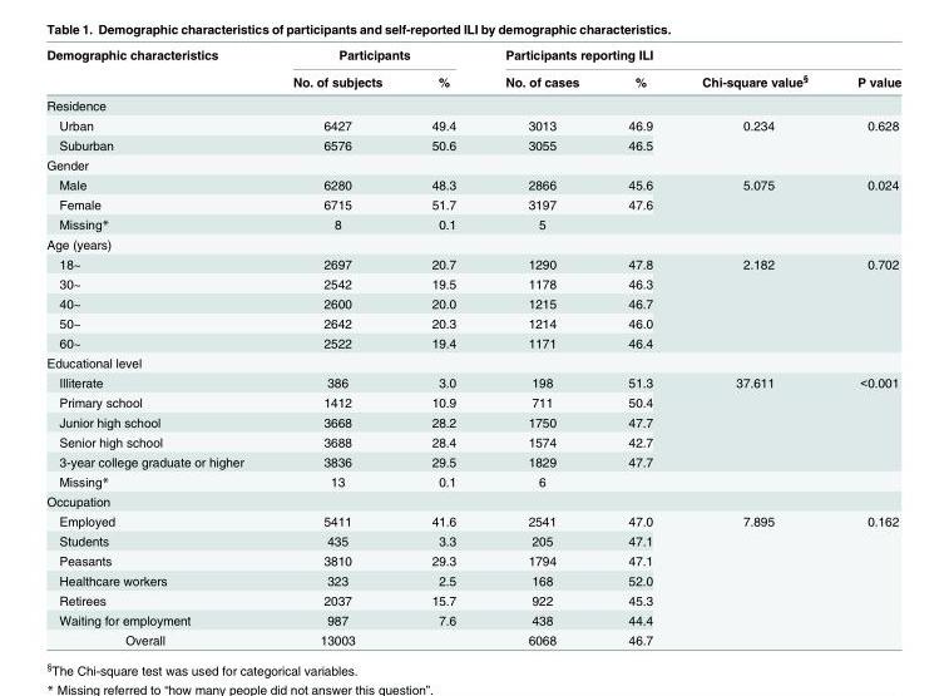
<table><thead><tr><td rowspan="2">Demographic characteristics</td><td colspan="2">Participants</td><td colspan="4">Participants reporting ILI</td></tr><tr><td>No. of subjects</td><td>%</td><td>No. of cases</td><td>%</td><td>Chi-square value<sup>§</sup></td><td>P value</td></tr></thead><tbody><tr><td colspan="7">Residence</td></tr><tr><td>Urban</td><td>6427</td><td>49.4</td><td>3013</td><td>46.9</td><td rowspan="2">0.234</td><td rowspan="2">0.628</td></tr><tr><td>Suburban</td><td>6576</td><td>50.6</td><td>3055</td><td>46.5</td></tr><tr><td colspan="7">Gender</td></tr><tr><td>Male</td><td>6280</td><td>48.3</td><td>2866</td><td>45.6</td><td rowspan="2">5.075</td><td rowspan="2">0.024</td></tr><tr><td>Female</td><td>6715</td><td>51.7</td><td>3197</td><td>47.6</td></tr><tr><td>Missing*</td><td>8</td><td>0.1</td><td>5</td><td></td><td></td><td></td></tr><tr><td colspan="7">Age (years)</td></tr><tr><td>18~</td><td>2697</td><td>20.7</td><td>1290</td><td>47.8</td><td rowspan="5">2.182</td><td rowspan="5">0.702</td></tr><tr><td>30~</td><td>2542</td><td>19.5</td><td>1178</td><td>46.3</td></tr><tr><td>40~</td><td>2600</td><td>20.0</td><td>1215</td><td>46.7</td></tr><tr><td>50~</td><td>2642</td><td>20.3</td><td>1214</td><td>46.0</td></tr><tr><td>60~</td><td>2522</td><td>19.4</td><td>1171</td><td>46.4</td></tr><tr><td colspan="7">Educational level</td></tr><tr><td>Illiterate</td><td>386</td><td>3.0</td><td>198</td><td>51.3</td><td rowspan="5">37.611</td><td rowspan="5">&lt;0.001</td></tr><tr><td>Primary school</td><td>1412</td><td>10.9</td><td>711</td><td>50.4</td></tr><tr><td>Junior high school</td><td>3668</td><td>28.2</td><td>1750</td><td>47.7</td></tr><tr><td>Senior high school</td><td>3688</td><td>28.4</td><td>1574</td><td>42.7</td></tr><tr><td>3-year college graduate or higher</td><td>3836</td><td>29.5</td><td>1829</td><td>47.7</td></tr><tr><td>Missing*</td><td>13</td><td>0.1</td><td>6</td><td></td><td></td><td></td></tr><tr><td colspan="7">Occupation</td></tr><tr><td>Employed</td><td>5411</td><td>41.6</td><td>2541</td><td>47.0</td><td rowspan="6">7.895</td><td rowspan="6">0.162</td></tr><tr><td>Students</td><td>435</td><td>3.3</td><td>205</td><td>47.1</td></tr><tr><td>Peasants</td><td>3810</td><td>29.3</td><td>1794</td><td>47.1</td></tr><tr><td>Healthcare workers</td><td>323</td><td>2.5</td><td>168</td><td>52.0</td></tr><tr><td>Retirees</td><td>2037</td><td>15.7</td><td>922</td><td>45.3</td></tr><tr><td>Waiting for employment</td><td>987</td><td>7.6</td><td>438</td><td>44.4</td></tr><tr><td>Overall</td><td>13003</td><td></td><td>6068</td><td>46.7</td><td></td><td></td></tr></tbody></table>